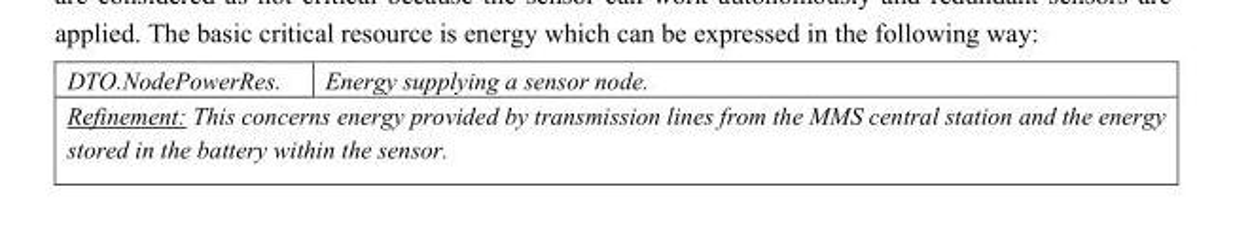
<table><tbody><tr><td>DTO.NodePowerRes.</td><td>Energy supplying a sensor node.</td></tr><tr><td colspan="2">Refinement: This concerns energy provided by transmission lines from the MMS central station and the energy stored in the battery within the sensor.</td></tr></tbody></table>